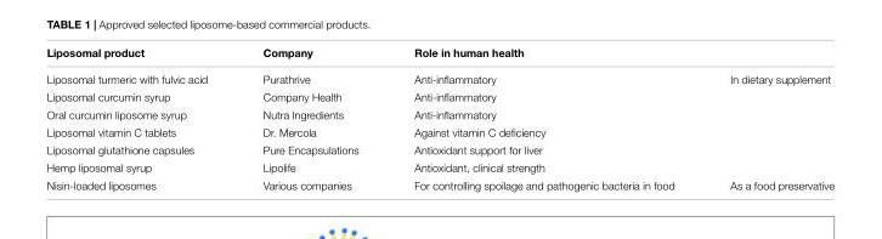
<table><thead><tr><td>Liposomal product</td><td>Company</td><td>Role in human health</td><td></td></tr></thead><tbody><tr><td>Liposomal turmeric with fulvic acid</td><td>Purathrive</td><td>Anti-inflammatory</td><td>In dietary supplement</td></tr><tr><td>Liposomal curcumin syrup</td><td>Company Health</td><td>Anti-inflammatory</td><td></td></tr><tr><td>Oral curcumin liposome syrup</td><td>Nutra Ingredients</td><td>Anti-inflammatory</td><td></td></tr><tr><td>Liposomal vitamin C tablets</td><td>Dr. Mercola</td><td>Against vitamin C deficiency</td><td></td></tr><tr><td>Liposomal glutathione capsules</td><td>Pure Encapsulations</td><td>Antioxidant support for liver</td><td></td></tr><tr><td>Hemp liposomal syrup</td><td>Lipolife</td><td>Antioxidant, clinical strength</td><td></td></tr><tr><td>Nisin-loaded liposomes</td><td>Various companies</td><td>For controlling spoilage and pathogenic bacteria in food</td><td>As a food preservative</td></tr></tbody></table>